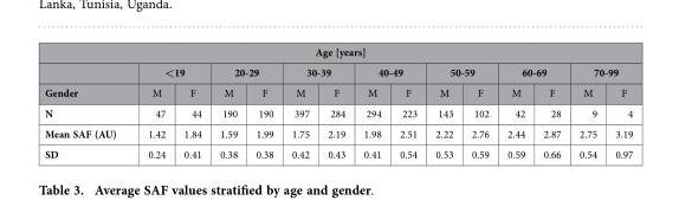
<table><thead><tr><td colspan="15">Age [years]</td></tr><tr><td rowspan="2">Gender</td><td colspan="2">&lt;19</td><td colspan="2">20-29</td><td colspan="2">30-39</td><td colspan="2">40-49</td><td colspan="2">50-59</td><td colspan="2">60-69</td><td colspan="2">70-99</td></tr><tr><td>M</td><td>F</td><td>M</td><td>F</td><td>M</td><td>F</td><td>M</td><td>F</td><td>M</td><td>F</td><td>M</td><td>F</td><td>M</td><td>F</td></tr></thead><tbody><tr><td>N</td><td>47</td><td>44</td><td>190</td><td>190</td><td>397</td><td>284</td><td>294</td><td>223</td><td>143</td><td>102</td><td>42</td><td>28</td><td>9</td><td>4</td></tr><tr><td>Mean SAF (AU)</td><td>1.42</td><td>1.84</td><td>1.59</td><td>1.99</td><td>1.75</td><td>2.19</td><td>1.98</td><td>2.51</td><td>2.22</td><td>2.76</td><td>2.44</td><td>2.87</td><td>2.75</td><td>3.19</td></tr><tr><td>SD</td><td>0.24</td><td>0.41</td><td>0.38</td><td>0.38</td><td>0.42</td><td>0.43</td><td>0.41</td><td>0.54</td><td>0.53</td><td>0.59</td><td>0.59</td><td>0.66</td><td>0.54</td><td>0.97</td></tr></tbody></table>